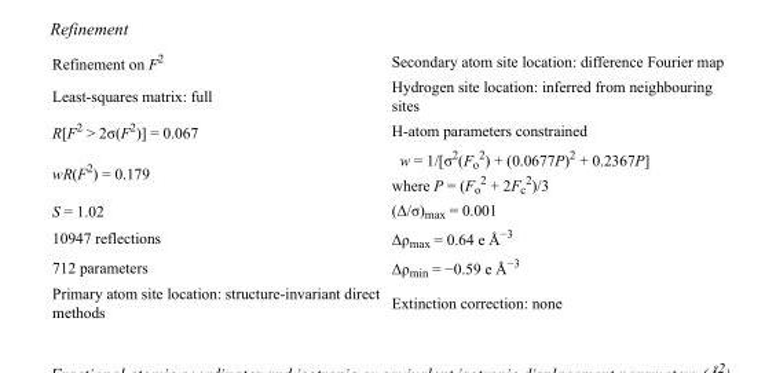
<table><tbody><tr><td>Refinement on F<sup>2</sup></td><td>Secondary atom site location: difference Fourier map</td></tr><tr><td>Least-squares matrix: full</td><td>Hydrogen site location: inferred from neighbouring sites</td></tr><tr><td>R[F<sup>2</sup> &gt; 2σ(F<sup>2</sup>)] = 0.067</td><td>H-atom parameters constrained</td></tr><tr><td>wR(F<sup>2</sup>) = 0.179</td><td>w = 1/[σ<sup>2</sup>(F<sub>o</sub> <sup>2</sup>) + (0.0677P)<sup>2</sup> + 0.2367P] where P = (F<sub>o</sub> <sup>2</sup> + 2F<sub>c</sub> <sup>2</sup>)/3</td></tr><tr><td>S = 1.02</td><td>(Δ/σ)<sub>max</sub> = 0.001</td></tr><tr><td>10947 reflections</td><td>Δρ<sub>max</sub> = 0.64 e Å<sup>−3</sup></td></tr><tr><td>712 parameters</td><td>Δρ<sub>min</sub> = −0.59 e Å<sup>−3</sup></td></tr><tr><td>Primary atom site location: structure-invariant direct methods</td><td>Extinction correction: none</td></tr></tbody></table>